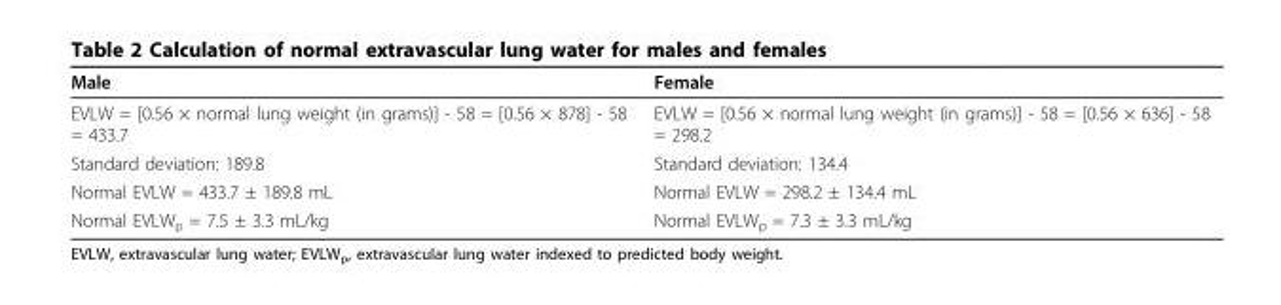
<table><thead><tr><td>Male</td><td>Female</td></tr></thead><tbody><tr><td>EVLW = [0.56 × normal lung weight (in grams)] - 58 = [0.56 × 878] - 58 = 433.7</td><td>EVLW = [0.56 × normal lung weight (in grams)] - 58 = [0.56 × 636] - 58 = 298.2</td></tr><tr><td>Standard deviation: 189.8</td><td>Standard deviation: 134.4</td></tr><tr><td>Normal EVLW = 433.7 ± 189.8 mL</td><td>Normal EVLW = 298.2 ± 134.4 mL</td></tr><tr><td>Normal EVLW<sub>p</sub> = 7.5 ± 3.3 mL/kg</td><td>Normal EVLW<sub>p</sub> = 7.3 ± 3.3 mL/kg</td></tr></tbody></table>